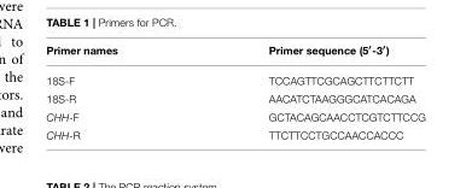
<table><thead><tr><td>Primer names</td><td>Primer sequence (5′-3′)</td></tr></thead><tbody><tr><td>18S-F</td><td>TCCAGTTCGCAGCTTCTTCTT</td></tr><tr><td>18S-R</td><td>AACATCTAAGGGCATCACAGA</td></tr><tr><td>CHH-F</td><td>GCTACAGCAACCTCGTCTTCCG</td></tr><tr><td>CHH-R</td><td>TTCTTCCTGCCAACCACCC</td></tr></tbody></table>